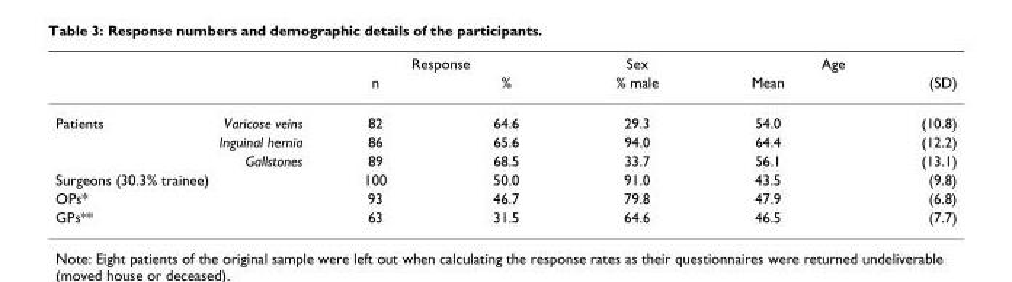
<table><thead><tr><td rowspan="2"></td><td rowspan="2"></td><td colspan="2">Response</td><td rowspan="2">Sex % male</td><td colspan="2">Age</td></tr><tr><td>n</td><td>%</td><td>Mean</td><td>(SD)</td></tr></thead><tbody><tr><td rowspan="3">Patients</td><td>Varicose veins</td><td>82</td><td>64.6</td><td>29.3</td><td>54.0</td><td>(10.8)</td></tr><tr><td>Inguinal hernia</td><td>86</td><td>65.6</td><td>94.0</td><td>64.4</td><td>(12.2)</td></tr><tr><td>Gallstones</td><td>89</td><td>68.5</td><td>33.7</td><td>56.1</td><td>(13.1)</td></tr><tr><td colspan="2">Surgeons (30.3% trainee)</td><td>100</td><td>50.0</td><td>91.0</td><td>43.5</td><td>(9.8)</td></tr><tr><td>OPs*</td><td></td><td>93</td><td>46.7</td><td>79.8</td><td>47.9</td><td>(6.8)</td></tr><tr><td>GPs**</td><td></td><td>63</td><td>31.5</td><td>64.6</td><td>46.5</td><td>(7.7)</td></tr></tbody></table>